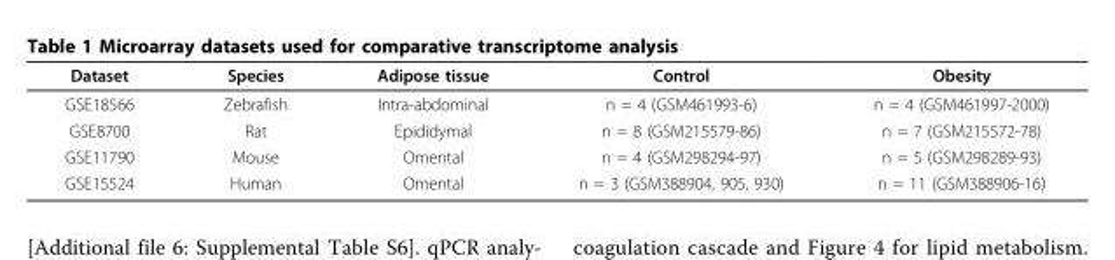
<table><thead><tr><td>Dataset</td><td>Species</td><td>Adipose tissue</td><td>Control</td><td>Obesity</td></tr></thead><tbody><tr><td>GSE18566</td><td>Zebrafish</td><td>Intra-abdominal</td><td>n = 4 (GSM461993-6)</td><td>n = 4 (GSM461997-2000)</td></tr><tr><td>GSE8700</td><td>Rat</td><td>Epididymal</td><td>n = 8 (GSM215579-86)</td><td>n = 7 (GSM215572-78)</td></tr><tr><td>GSE11790</td><td>Mouse</td><td>Omental</td><td>n = 4 (GSM298294-97)</td><td>n = 5 (GSM298289-93)</td></tr><tr><td>GSE15524</td><td>Human</td><td>Omental</td><td>n = 3 (GSM388904, 905, 930)</td><td>n = 11 (GSM388906-16)</td></tr></tbody></table>